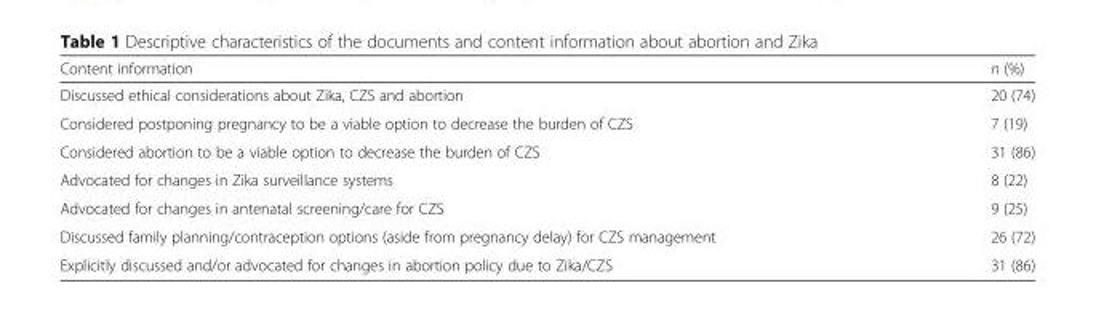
<table><thead><tr><td>Content information</td><td>n (%)</td></tr></thead><tbody><tr><td>Discussed ethical considerations about Zika, CZS and abortion</td><td>20 (74)</td></tr><tr><td>Considered postponing pregnancy to be a viable option to decrease the burden of CZS</td><td>7 (19)</td></tr><tr><td>Considered abortion to be a viable option to decrease the burden of CZS</td><td>31 (86)</td></tr><tr><td>Advocated for changes in Zika surveillance systems</td><td>8 (22)</td></tr><tr><td>Advocated for changes in antenatal screening/care for CZS</td><td>9 (25)</td></tr><tr><td>Discussed family planning/contraception options (aside from pregnancy delay) for CZS management</td><td>26 (72)</td></tr><tr><td>Explicitly discussed and/or advocated for changes in abortion policy due to Zika/CZS</td><td>31 (86)</td></tr></tbody></table>